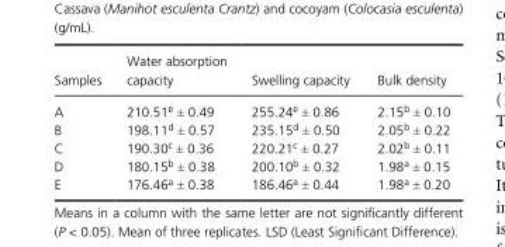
<table><thead><tr><td>Samples</td><td>Water absorption capacity</td><td>Swelling capacity</td><td>Bulk density</td></tr></thead><tbody><tr><td>A</td><td>210.51<sup>e</sup> ± 0.49</td><td>255.24<sup>e</sup> ± 0.86</td><td>2.15<sup>b</sup> ± 0.10</td></tr><tr><td>B</td><td>198.11<sup>d</sup> ± 0.57</td><td>235.15<sup>d</sup> ± 0.50</td><td>2.05<sup>b</sup> ± 0.22</td></tr><tr><td>C</td><td>190.30<sup>c</sup> ± 0.36</td><td>220.21<sup>c</sup> ± 0.27</td><td>2.02<sup>b</sup> ± 0.11</td></tr><tr><td>D</td><td>180.15<sup>b</sup> ± 0.38</td><td>200.10<sup>b</sup> ± 0.32</td><td>1.98<sup>a</sup> ± 0.15</td></tr><tr><td>E</td><td>176.46<sup>a</sup> ± 0.38</td><td>186.46<sup>a</sup> ± 0.44</td><td>1.98<sup>a</sup> ± 0.20</td></tr></tbody></table>